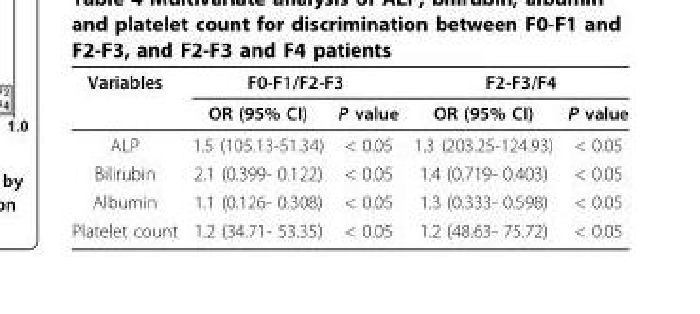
<table><thead><tr><td rowspan="2">Variables</td><td colspan="2">F0-F1/F2-F3</td><td colspan="2">F2-F3/F4</td></tr><tr><td>OR (95% CI)</td><td>P value</td><td>OR (95% CI)</td><td>P value</td></tr></thead><tbody><tr><td>ALP</td><td>1.5 (105.13-51.34)</td><td>&lt; 0.05</td><td>1.3 (203.25-124.93)</td><td>&lt; 0.05</td></tr><tr><td>Bilirubin</td><td>2.1 (0.399- 0.122)</td><td>&lt; 0.05</td><td>1.4 (0.719- 0.403)</td><td>&lt; 0.05</td></tr><tr><td>Albumin</td><td>1.1 (0.126- 0.308)</td><td>&lt; 0.05</td><td>1.3 (0.333- 0.598)</td><td>&lt; 0.05</td></tr><tr><td>Platelet count</td><td>1.2 (34.71- 53.35)</td><td>&lt; 0.05</td><td>1.2 (48.63- 75.72)</td><td>&lt; 0.05</td></tr></tbody></table>